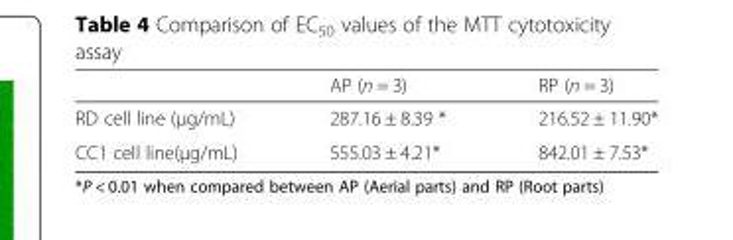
<table><thead><tr><td></td><td>AP (n = 3)</td><td>RP (n = 3)</td></tr></thead><tbody><tr><td>RD cell line (μg/mL)</td><td>287.16 ± 8.39 *</td><td>216.52 ± 11.90*</td></tr><tr><td>CC1 cell line(μg/mL)</td><td>555.03 ± 4.21*</td><td>842.01 ± 7.53*</td></tr></tbody></table>